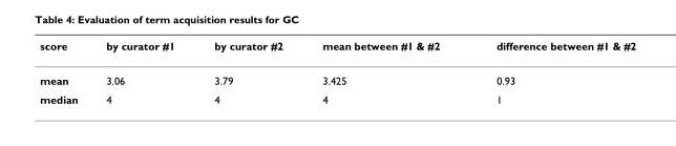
<table><thead><tr><td>score</td><td>by curator #1</td><td>by curator #2</td><td>mean between #1 &amp; #2</td><td>difference between #1 &amp; #2</td></tr></thead><tbody><tr><td>mean</td><td>3.06</td><td>3.79</td><td>3.425</td><td>0.93</td></tr><tr><td>median</td><td>4</td><td>4</td><td>4</td><td>1</td></tr></tbody></table>